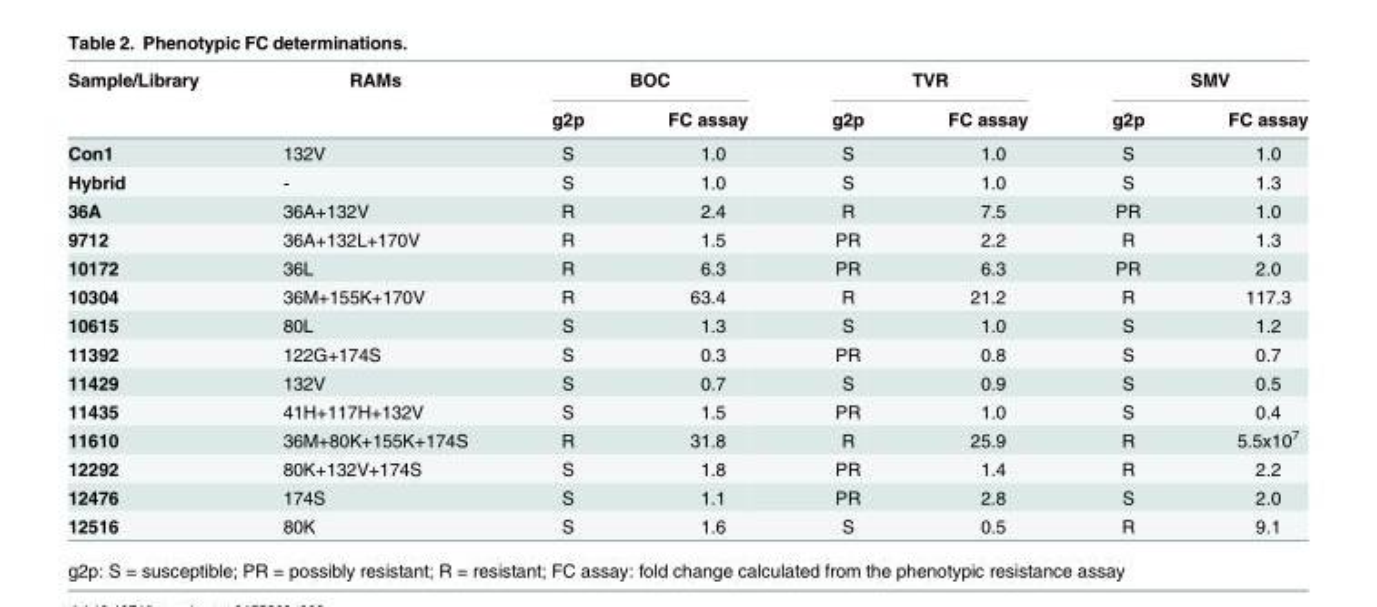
<table><thead><tr><td rowspan="2">Sample/Library</td><td rowspan="2">RAMs</td><td colspan="2">BOC</td><td colspan="2">TVR</td><td colspan="2">SMV</td></tr><tr><td>g2p</td><td>FC assay</td><td>g2p</td><td>FC assay</td><td>g2p</td><td>FC assay</td></tr></thead><tbody><tr><td>Con1</td><td>132V</td><td>S</td><td>1.0</td><td>S</td><td>1.0</td><td>S</td><td>1.0</td></tr><tr><td>Hybrid</td><td>-</td><td>S</td><td>1.0</td><td>S</td><td>1.0</td><td>S</td><td>1.3</td></tr><tr><td>36A</td><td>36A+132V</td><td>R</td><td>2.4</td><td>R</td><td>7.5</td><td>PR</td><td>1.0</td></tr><tr><td>9712</td><td>36A+132L+170V</td><td>R</td><td>1.5</td><td>PR</td><td>2.2</td><td>R</td><td>1.3</td></tr><tr><td>10172</td><td>36L</td><td>R</td><td>6.3</td><td>PR</td><td>6.3</td><td>PR</td><td>2.0</td></tr><tr><td>10304</td><td>36M+155K+170V</td><td>R</td><td>63.4</td><td>R</td><td>21.2</td><td>R</td><td>117.3</td></tr><tr><td>10615</td><td>80L</td><td>S</td><td>1.3</td><td>S</td><td>1.0</td><td>S</td><td>1.2</td></tr><tr><td>11392</td><td>122G+174S</td><td>S</td><td>0.3</td><td>PR</td><td>0.8</td><td>S</td><td>0.7</td></tr><tr><td>11429</td><td>132V</td><td>S</td><td>0.7</td><td>S</td><td>0.9</td><td>S</td><td>0.5</td></tr><tr><td>11435</td><td>41H+117H+132V</td><td>S</td><td>1.5</td><td>PR</td><td>1.0</td><td>S</td><td>0.4</td></tr><tr><td>11610</td><td>36M+80K+155K+174S</td><td>R</td><td>31.8</td><td>R</td><td>25.9</td><td>R</td><td>5.5x10<sup>7</sup></td></tr><tr><td>12292</td><td>80K+132V+174S</td><td>S</td><td>1.8</td><td>PR</td><td>1.4</td><td>R</td><td>2.2</td></tr><tr><td>12476</td><td>174S</td><td>S</td><td>1.1</td><td>PR</td><td>2.8</td><td>S</td><td>2.0</td></tr><tr><td>12516</td><td>80K</td><td>S</td><td>1.6</td><td>S</td><td>0.5</td><td>R</td><td>9.1</td></tr></tbody></table>